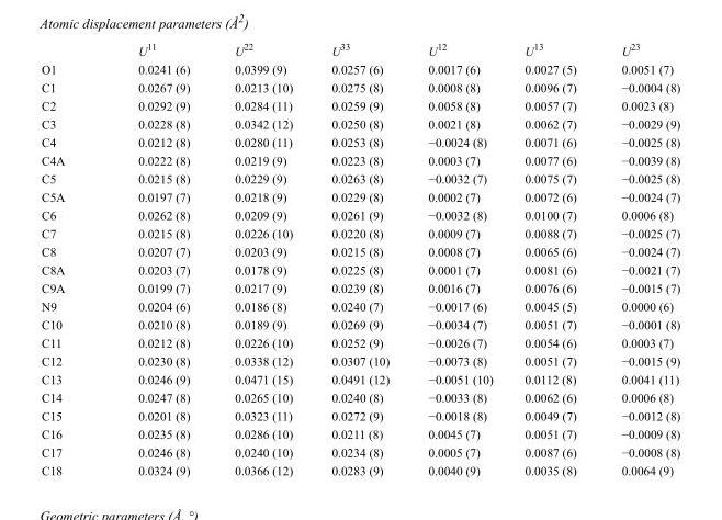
<table><thead><tr><td></td><td>U<sup>11</sup></td><td>U<sup>22</sup></td><td>U<sup>33</sup></td><td>U<sup>12</sup></td><td>U<sup>13</sup></td><td>U<sup>23</sup></td></tr></thead><tbody><tr><td>O1</td><td>0.0241 (6)</td><td>0.0399 (9)</td><td>0.0257 (6)</td><td>0.0017 (6)</td><td>0.0027 (5)</td><td>0.0051 (7)</td></tr><tr><td>C1</td><td>0.0267 (9)</td><td>0.0213 (10)</td><td>0.0275 (8)</td><td>0.0008 (8)</td><td>0.0096 (7)</td><td>−0.0004 (8)</td></tr><tr><td>C2</td><td>0.0292 (9)</td><td>0.0284 (11)</td><td>0.0259 (9)</td><td>0.0058 (8)</td><td>0.0057 (7)</td><td>0.0023 (8)</td></tr><tr><td>C3</td><td>0.0228 (8)</td><td>0.0342 (12)</td><td>0.0250 (8)</td><td>0.0021 (8)</td><td>0.0062 (7)</td><td>−0.0029 (9)</td></tr><tr><td>C4</td><td>0.0212 (8)</td><td>0.0280 (11)</td><td>0.0253 (8)</td><td>−0.0024 (8)</td><td>0.0071 (6)</td><td>−0.0025 (8)</td></tr><tr><td>C4A</td><td>0.0222 (8)</td><td>0.0219 (9)</td><td>0.0223 (8)</td><td>0.0003 (7)</td><td>0.0077 (6)</td><td>−0.0039 (8)</td></tr><tr><td>C5</td><td>0.0215 (8)</td><td>0.0229 (9)</td><td>0.0263 (8)</td><td>−0.0032 (7)</td><td>0.0075 (7)</td><td>−0.0025 (8)</td></tr><tr><td>C5A</td><td>0.0197 (7)</td><td>0.0218 (9)</td><td>0.0229 (8)</td><td>0.0002 (7)</td><td>0.0072 (6)</td><td>−0.0024 (7)</td></tr><tr><td>C6</td><td>0.0262 (8)</td><td>0.0209 (9)</td><td>0.0261 (9)</td><td>−0.0032 (8)</td><td>0.0100 (7)</td><td>0.0006 (8)</td></tr><tr><td>C7</td><td>0.0215 (8)</td><td>0.0226 (10)</td><td>0.0220 (8)</td><td>0.0009 (7)</td><td>0.0088 (7)</td><td>−0.0025 (7)</td></tr><tr><td>C8</td><td>0.0207 (7)</td><td>0.0203 (9)</td><td>0.0215 (8)</td><td>0.0008 (7)</td><td>0.0065 (6)</td><td>−0.0024 (7)</td></tr><tr><td>C8A</td><td>0.0203 (7)</td><td>0.0178 (9)</td><td>0.0225 (8)</td><td>0.0001 (7)</td><td>0.0081 (6)</td><td>−0.0021 (7)</td></tr><tr><td>C9A</td><td>0.0199 (7)</td><td>0.0217 (9)</td><td>0.0239 (8)</td><td>0.0016 (7)</td><td>0.0076 (6)</td><td>−0.0015 (7)</td></tr><tr><td>N9</td><td>0.0204 (6)</td><td>0.0186 (8)</td><td>0.0240 (7)</td><td>−0.0017 (6)</td><td>0.0045 (5)</td><td>0.0000 (6)</td></tr><tr><td>C10</td><td>0.0210 (8)</td><td>0.0189 (9)</td><td>0.0269 (9)</td><td>−0.0034 (7)</td><td>0.0051 (7)</td><td>−0.0001 (8)</td></tr><tr><td>C11</td><td>0.0212 (8)</td><td>0.0226 (10)</td><td>0.0252 (9)</td><td>−0.0026 (7)</td><td>0.0054 (6)</td><td>0.0003 (7)</td></tr><tr><td>C12</td><td>0.0230 (8)</td><td>0.0338 (12)</td><td>0.0307 (10)</td><td>−0.0073 (8)</td><td>0.0051 (7)</td><td>−0.0015 (9)</td></tr><tr><td>C13</td><td>0.0246 (9)</td><td>0.0471 (15)</td><td>0.0491 (12)</td><td>−0.0051 (10)</td><td>0.0112 (8)</td><td>0.0041 (11)</td></tr><tr><td>C14</td><td>0.0247 (8)</td><td>0.0265 (10)</td><td>0.0240 (8)</td><td>−0.0033 (8)</td><td>0.0062 (6)</td><td>0.0006 (8)</td></tr><tr><td>C15</td><td>0.0201 (8)</td><td>0.0323 (11)</td><td>0.0272 (9)</td><td>−0.0018 (8)</td><td>0.0049 (7)</td><td>−0.0012 (8)</td></tr><tr><td>C16</td><td>0.0235 (8)</td><td>0.0286 (10)</td><td>0.0211 (8)</td><td>0.0045 (7)</td><td>0.0051 (7)</td><td>−0.0009 (8)</td></tr><tr><td>C17</td><td>0.0246 (8)</td><td>0.0240 (10)</td><td>0.0234 (8)</td><td>0.0005 (7)</td><td>0.0087 (6)</td><td>−0.0008 (8)</td></tr><tr><td>C18</td><td>0.0324 (9)</td><td>0.0366 (12)</td><td>0.0283 (9)</td><td>0.0040 (9)</td><td>0.0035 (8)</td><td>0.0064 (9)</td></tr></tbody></table>